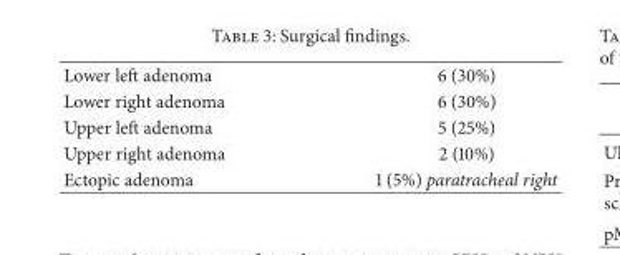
<table><tbody><tr><td>Lower left adenoma</td><td>6 (30%)</td></tr><tr><td>Lower right adenoma</td><td>6 (30%)</td></tr><tr><td>Upper left adenoma</td><td>5 (25%)</td></tr><tr><td>Upper right adenoma</td><td>2 (10%)</td></tr><tr><td>Ectopic adenoma</td><td>1 (5%) paratracheal right</td></tr></tbody></table>